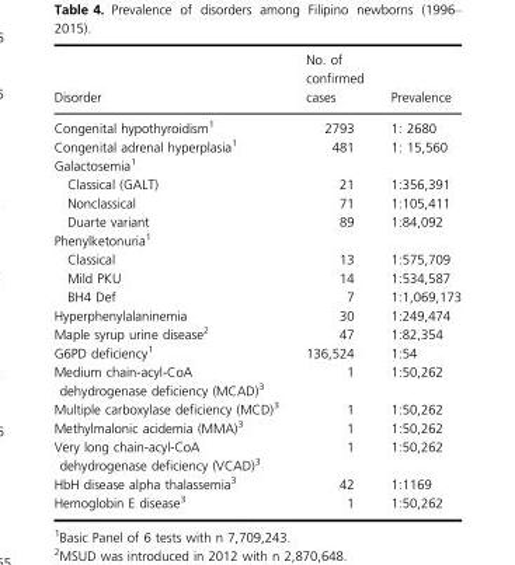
<table><thead><tr><td>Disorder</td><td>No. of confirmed cases</td><td>Prevalence</td></tr></thead><tbody><tr><td>Congenital hypothyroidism1</td><td>2793</td><td>1: 2680</td></tr><tr><td>Congenital adrenal hyperplasia1</td><td>481</td><td>1: 15,560</td></tr><tr><td colspan="3">Galactosemia1</td></tr><tr><td>Classical (GALT)</td><td>21</td><td>1:356,391</td></tr><tr><td>Nonclassical</td><td>71</td><td>1:105,411</td></tr><tr><td>Duarte variant</td><td>89</td><td>1:84,092</td></tr><tr><td colspan="3">Phenylketonuria1</td></tr><tr><td>Classical</td><td>13</td><td>1:575,709</td></tr><tr><td>Mild PKU</td><td>14</td><td>1:534,587</td></tr><tr><td>BH4 Def</td><td>7</td><td>1:1,069,173</td></tr><tr><td>Hyperphenylalaninemia</td><td>30</td><td>1:249,474</td></tr><tr><td>Maple syrup urine disease2</td><td>47</td><td>1:82,354</td></tr><tr><td>G6PD deficiency1</td><td>136,524</td><td>1:54</td></tr><tr><td>Medium chain-acyl-CoA dehydrogenase deficiency (MCAD)3</td><td>1</td><td>1:50,262</td></tr><tr><td>Multiple carboxylase deficiency (MCD)3</td><td>1</td><td>1:50,262</td></tr><tr><td>Methylmalonic acidemia (MMA)3</td><td>1</td><td>1:50,262</td></tr><tr><td>Very long chain-acyl-CoA dehydrogenase deficiency (VCAD)3</td><td>1</td><td>1:50,262</td></tr><tr><td>HbH disease alpha thalassemia3</td><td>42</td><td>1:1169</td></tr><tr><td>Hemoglobin E disease3</td><td>1</td><td>1:50,262</td></tr></tbody></table>